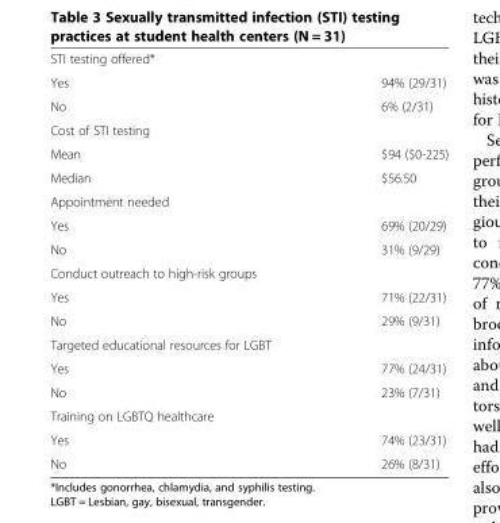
<table><tbody><tr><td colspan="2">STI testing offered*</td></tr><tr><td>Yes</td><td>94% (29/31)</td></tr><tr><td>No</td><td>6% (2/31)</td></tr><tr><td colspan="2">Cost of STI testing</td></tr><tr><td>Mean</td><td>$94 ($0-225)</td></tr><tr><td>Median</td><td>$56.50</td></tr><tr><td colspan="2">Appointment needed</td></tr><tr><td>Yes</td><td>69% (20/29)</td></tr><tr><td>No</td><td>31% (9/29)</td></tr><tr><td colspan="2">Conduct outreach to high-risk groups</td></tr><tr><td>Yes</td><td>71% (22/31)</td></tr><tr><td>No</td><td>29% (9/31)</td></tr><tr><td colspan="2">Targeted educational resources for LGBT</td></tr><tr><td>Yes</td><td>77% (24/31)</td></tr><tr><td>No</td><td>23% (7/31)</td></tr><tr><td colspan="2">Training on LGBTQ healthcare</td></tr><tr><td>Yes</td><td>74% (23/31)</td></tr><tr><td>No</td><td>26% (8/31)</td></tr></tbody></table>